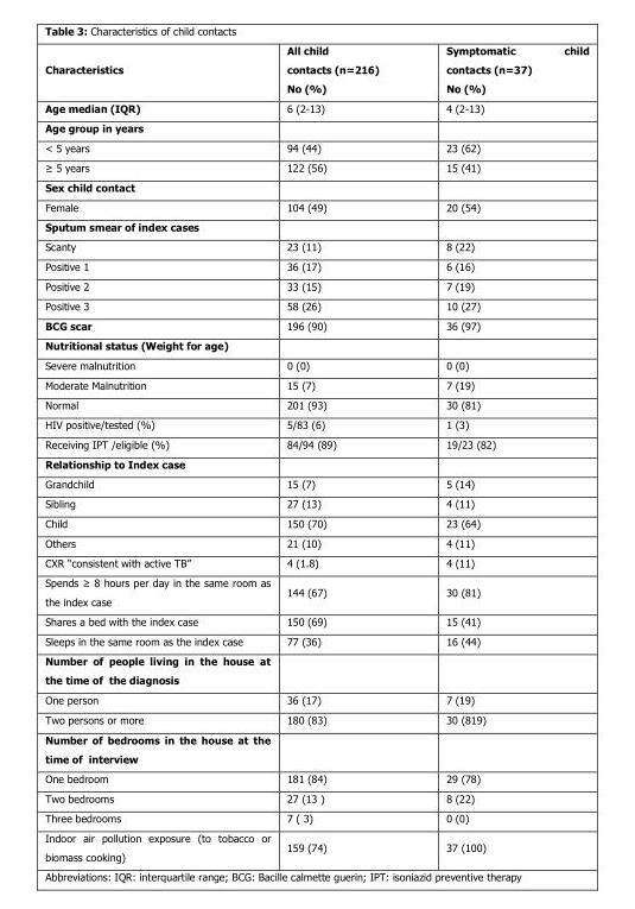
<table><thead><tr><td>Characteristics</td><td>All child contacts (n=216) No (%)</td><td>Symptomatic child contacts (n=37) No (%)</td></tr></thead><tbody><tr><td>Age median (IQR)</td><td>6 (2-13)</td><td>4 (2-13)</td></tr><tr><td colspan="3">Age group in years</td></tr><tr><td>&lt; 5 years</td><td>94 (44)</td><td>23 (62)</td></tr><tr><td>≥ 5 years</td><td>122 (56)</td><td>15 (41)</td></tr><tr><td colspan="3">Sex child contact</td></tr><tr><td>Female</td><td>104 (49)</td><td>20 (54)</td></tr><tr><td colspan="3">Sputum smear of index cases</td></tr><tr><td>Scanty</td><td>23 (11)</td><td>8 (22)</td></tr><tr><td>Positive 1</td><td>36 (17)</td><td>6 (16)</td></tr><tr><td>Positive 2</td><td>33 (15)</td><td>7 (19)</td></tr><tr><td>Positive 3</td><td>58 (26)</td><td>10 (27)</td></tr><tr><td>BCG scar</td><td>196 (90)</td><td>36 (97)</td></tr><tr><td colspan="3">Nutritional status (Weight for age)</td></tr><tr><td>Severe malnutrition</td><td>0 (0)</td><td>0 (0)</td></tr><tr><td>Moderate Malnutrition</td><td>15 (7)</td><td>7 (19)</td></tr><tr><td>Normal</td><td>201 (93)</td><td>30 (81)</td></tr><tr><td>HIV positive/tested (%)</td><td>5/83 (6)</td><td>1 (3)</td></tr><tr><td>Receiving IPT /eligible (%)</td><td>84/94 (89)</td><td>19/23 (82)</td></tr><tr><td colspan="3">Relationship to Index case</td></tr><tr><td>Grandchild</td><td>15 (7)</td><td>5 (14)</td></tr><tr><td>Sibling</td><td>27 (13)</td><td>4 (11)</td></tr><tr><td>Child</td><td>150 (70)</td><td>23 (64)</td></tr><tr><td>Others</td><td>21 (10)</td><td>4 (11)</td></tr><tr><td>CXR “consistent with active TB”</td><td>4 (1.8)</td><td>4 (11)</td></tr><tr><td>Spends ≥ 8 hours per day in the same room as the index case</td><td>144 (67)</td><td>30 (81)</td></tr><tr><td>Shares a bed with the index case</td><td>150 (69)</td><td>15 (41)</td></tr><tr><td>Sleeps in the same room as the index case</td><td>77 (36)</td><td>16 (44)</td></tr><tr><td colspan="3">Number of people living in the house at the time of the diagnosis</td></tr><tr><td>One person</td><td>36 (17)</td><td>7 (19)</td></tr><tr><td>Two persons or more</td><td>180 (83)</td><td>30 (819)</td></tr><tr><td colspan="3">Number of bedrooms in the house at the time of interview</td></tr><tr><td>One bedroom</td><td>181 (84)</td><td>29 (78)</td></tr><tr><td>Two bedrooms</td><td>27 (13 )</td><td>8 (22)</td></tr><tr><td>Three bedrooms</td><td>7 ( 3)</td><td>0 (0)</td></tr><tr><td>Indoor air pollution exposure (to tobacco or biomass cooking)</td><td>159 (74)</td><td>37 (100)</td></tr></tbody></table>